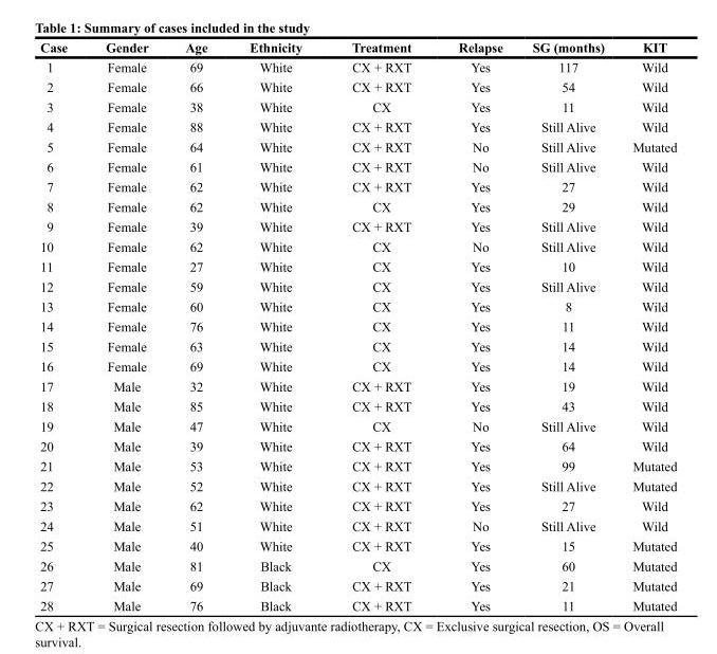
<table><thead><tr><td>Case</td><td>Gender</td><td>Age</td><td>Ethnicity</td><td>Treatment</td><td>Relapse</td><td>SG (months)</td><td>KIT</td></tr></thead><tbody><tr><td>1</td><td>Female</td><td>69</td><td>White</td><td>CX + RXT</td><td>Yes</td><td>117</td><td>Wild</td></tr><tr><td>2</td><td>Female</td><td>66</td><td>White</td><td>CX + RXT</td><td>Yes</td><td>54</td><td>Wild</td></tr><tr><td>3</td><td>Female</td><td>38</td><td>White</td><td>CX</td><td>Yes</td><td>11</td><td>Wild</td></tr><tr><td>4</td><td>Female</td><td>88</td><td>White</td><td>CX + RXT</td><td>Yes</td><td>Still Alive</td><td>Wild</td></tr><tr><td>5</td><td>Female</td><td>64</td><td>White</td><td>CX + RXT</td><td>No</td><td>Still Alive</td><td>Mutated</td></tr><tr><td>6</td><td>Female</td><td>61</td><td>White</td><td>CX + RXT</td><td>No</td><td>Still Alive</td><td>Wild</td></tr><tr><td>7</td><td>Female</td><td>62</td><td>White</td><td>CX + RXT</td><td>Yes</td><td>27</td><td>Wild</td></tr><tr><td>8</td><td>Female</td><td>62</td><td>White</td><td>CX</td><td>Yes</td><td>29</td><td>Wild</td></tr><tr><td>9</td><td>Female</td><td>39</td><td>White</td><td>CX + RXT</td><td>Yes</td><td>Still Alive</td><td>Wild</td></tr><tr><td>10</td><td>Female</td><td>62</td><td>White</td><td>CX</td><td>No</td><td>Still Alive</td><td>Wild</td></tr><tr><td>11</td><td>Female</td><td>27</td><td>White</td><td>CX</td><td>Yes</td><td>10</td><td>Wild</td></tr><tr><td>12</td><td>Female</td><td>59</td><td>White</td><td>CX</td><td>Yes</td><td>Still Alive</td><td>Wild</td></tr><tr><td>13</td><td>Female</td><td>60</td><td>White</td><td>CX</td><td>Yes</td><td>8</td><td>Wild</td></tr><tr><td>14</td><td>Female</td><td>76</td><td>White</td><td>CX</td><td>Yes</td><td>11</td><td>Wild</td></tr><tr><td>15</td><td>Female</td><td>63</td><td>White</td><td>CX</td><td>Yes</td><td>14</td><td>Wild</td></tr><tr><td>16</td><td>Female</td><td>69</td><td>White</td><td>CX</td><td>Yes</td><td>14</td><td>Wild</td></tr><tr><td>17</td><td>Male</td><td>32</td><td>White</td><td>CX + RXT</td><td>Yes</td><td>19</td><td>Wild</td></tr><tr><td>18</td><td>Male</td><td>85</td><td>White</td><td>CX + RXT</td><td>Yes</td><td>43</td><td>Wild</td></tr><tr><td>19</td><td>Male</td><td>47</td><td>White</td><td>CX</td><td>No</td><td>Still Alive</td><td>Wild</td></tr><tr><td>20</td><td>Male</td><td>39</td><td>White</td><td>CX + RXT</td><td>Yes</td><td>64</td><td>Wild</td></tr><tr><td>21</td><td>Male</td><td>53</td><td>White</td><td>CX + RXT</td><td>Yes</td><td>99</td><td>Mutated</td></tr><tr><td>22</td><td>Male</td><td>52</td><td>White</td><td>CX + RXT</td><td>Yes</td><td>Still Alive</td><td>Mutated</td></tr><tr><td>23</td><td>Male</td><td>62</td><td>White</td><td>CX + RXT</td><td>Yes</td><td>27</td><td>Wild</td></tr><tr><td>24</td><td>Male</td><td>51</td><td>White</td><td>CX + RXT</td><td>No</td><td>Still Alive</td><td>Wild</td></tr><tr><td>25</td><td>Male</td><td>40</td><td>White</td><td>CX + RXT</td><td>Yes</td><td>15</td><td>Mutated</td></tr><tr><td>26</td><td>Male</td><td>81</td><td>Black</td><td>CX</td><td>Yes</td><td>60</td><td>Mutated</td></tr><tr><td>27</td><td>Male</td><td>69</td><td>Black</td><td>CX + RXT</td><td>Yes</td><td>21</td><td>Mutated</td></tr><tr><td>28</td><td>Male</td><td>76</td><td>Black</td><td>CX + RXT</td><td>Yes</td><td>11</td><td>Mutated</td></tr></tbody></table>